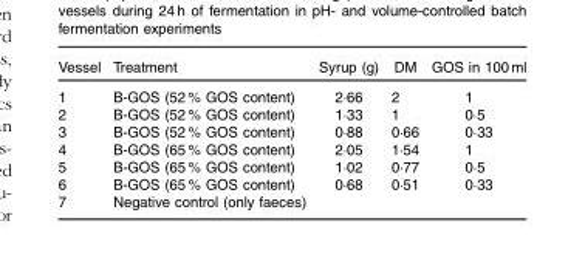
<table><thead><tr><td>Vessel</td><td>Treatment</td><td>Syrup (g)</td><td>DM</td><td>GOS in 100 ml</td></tr></thead><tbody><tr><td>1</td><td>B-GOS (52 % GOS content)</td><td>2·66</td><td>2</td><td>1</td></tr><tr><td>2</td><td>B-GOS (52 % GOS content)</td><td>1·33</td><td>1</td><td>0·5</td></tr><tr><td>3</td><td>B-GOS (52 % GOS content)</td><td>0·88</td><td>0·66</td><td>0·33</td></tr><tr><td>4</td><td>B-GOS (65 % GOS content)</td><td>2·05</td><td>1·54</td><td>1</td></tr><tr><td>5</td><td>B-GOS (65 % GOS content)</td><td>1·02</td><td>0·77</td><td>0·5</td></tr><tr><td>6</td><td>B-GOS (65 % GOS content)</td><td>0·68</td><td>0·51</td><td>0·33</td></tr><tr><td>7</td><td>Negative control (only faeces)</td><td></td><td></td><td></td></tr></tbody></table>